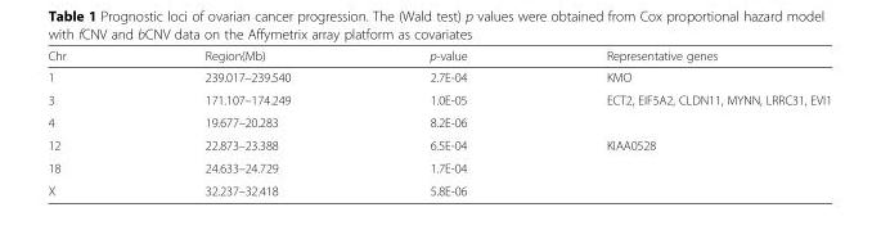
<table><thead><tr><td>Chr</td><td>Region(Mb)</td><td>p-value</td><td>Representative genes</td></tr></thead><tbody><tr><td>1</td><td>239.017–239.540</td><td>2.7E-04</td><td>KMO</td></tr><tr><td>3</td><td>171.107–174.249</td><td>1.0E-05</td><td>ECT2, EIF5A2, CLDN11, MYNN, LRRC31, EVI1</td></tr><tr><td>4</td><td>19.677–20.283</td><td>8.2E-06</td><td></td></tr><tr><td>12</td><td>22.873–23.388</td><td>6.5E-04</td><td>KIAA0528</td></tr><tr><td>18</td><td>24.633–24.729</td><td>1.7E-04</td><td></td></tr><tr><td>X</td><td>32.237–32.418</td><td>5.8E-06</td><td></td></tr></tbody></table>